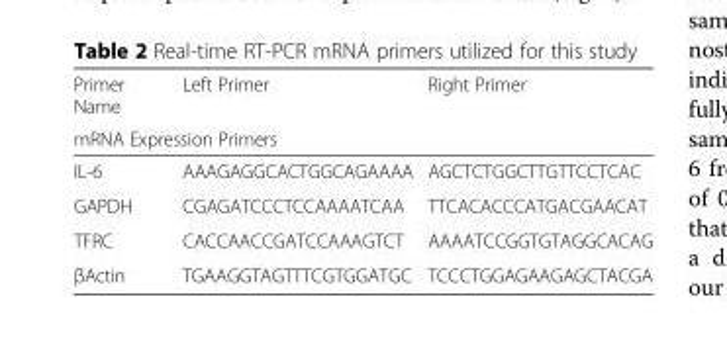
<table><thead><tr><td>Primer Name</td><td>Left Primer</td><td>Right Primer</td></tr><tr><td colspan="3">mRNA Expression Primers</td></tr></thead><tbody><tr><td>IL-6</td><td>AAAGAGGCACTGGCAGAAAA</td><td>AGCTCTGGCTTGTTCCTCAC</td></tr><tr><td>GAPDH</td><td>CGAGATCCCTCCAAAATCAA</td><td>TTCACACCCATGACGAACAT</td></tr><tr><td>TFRC</td><td>CACCAACCGATCCAAAGTCT</td><td>AAAATCCGGTGTAGGCACAG</td></tr><tr><td>βActin</td><td>TGAAGGTAGTTTCGTGGATGC</td><td>TCCCTGGAGAAGAGCTACGA</td></tr></tbody></table>